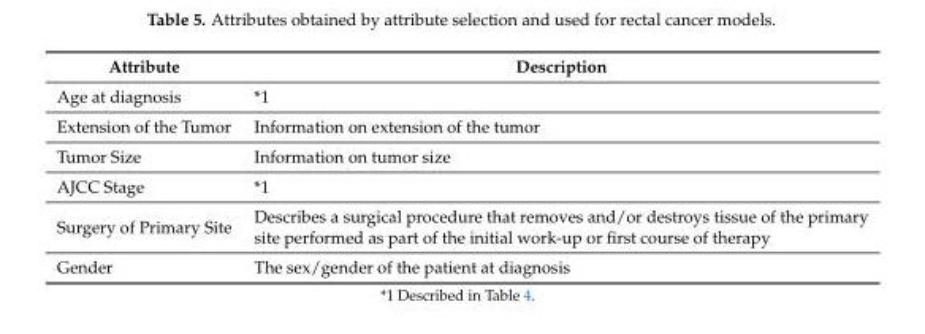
<table><thead><tr><td>Attribute</td><td>Description</td></tr></thead><tbody><tr><td>Age at diagnosis</td><td>*1</td></tr><tr><td>Extension of the Tumor</td><td>Information on extension of the tumor</td></tr><tr><td>Tumor Size</td><td>Information on tumor size</td></tr><tr><td>AJCC Stage</td><td>*1</td></tr><tr><td>Surgery of Primary Site</td><td>Describes a surgical procedure that removes and/or destroys tissue of the primary site performed as part of the initial work-up or first course of therapy</td></tr><tr><td>Gender</td><td>The sex/gender of the patient at diagnosis</td></tr></tbody></table>